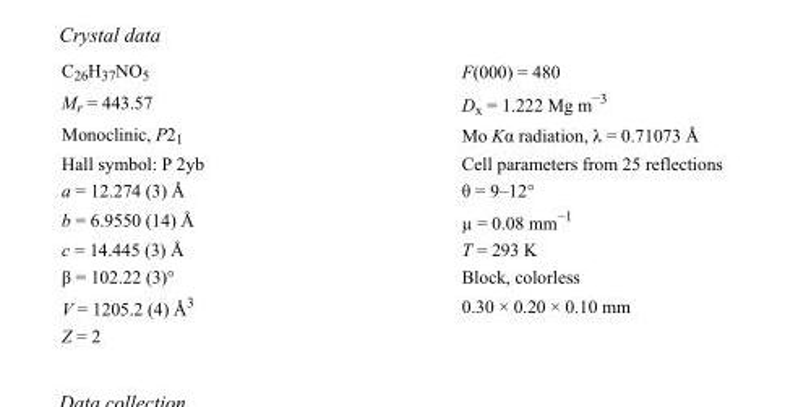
<table><tbody><tr><td>C<sub>26</sub>H<sub>37</sub>NO<sub>5</sub></td><td>F(000) = 480</td></tr><tr><td>M<sub>r</sub> = 443.57</td><td>D<sub>x</sub> = 1.222 Mg m<sup>−3</sup></td></tr><tr><td>Monoclinic, P2<sub>1</sub></td><td>Mo Kα radiation, λ = 0.71073 Å</td></tr><tr><td>Hall symbol: P 2yb</td><td>Cell parameters from 25 reflections</td></tr><tr><td>a = 12.274 (3) Å</td><td>θ = 9–12°</td></tr><tr><td>b = 6.9550 (14) Å</td><td>µ = 0.08 mm<sup>−1</sup></td></tr><tr><td>c = 14.445 (3) Å</td><td>T = 293 K</td></tr><tr><td>β = 102.22 (3)°</td><td>Block, colorless</td></tr><tr><td>V = 1205.2 (4) Å<sup>3</sup></td><td>0.30 × 0.20 × 0.10 mm</td></tr><tr><td>Z = 2</td><td></td></tr></tbody></table>